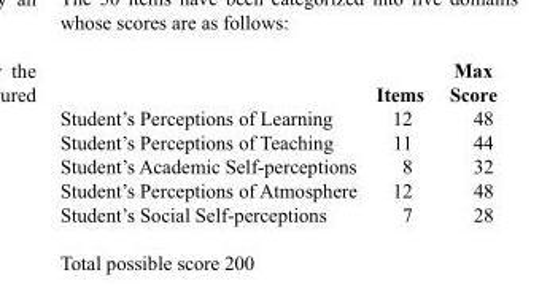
<table><thead><tr><td rowspan="2"></td><td rowspan="2">Items</td><td rowspan="2">Max Score</td></tr><tr></tr></thead><tbody><tr><td>Student’s Perceptions of Learning</td><td>12</td><td>48</td></tr><tr><td>Student’s Perceptions of Teaching</td><td>11</td><td>44</td></tr><tr><td>Student’s Academic Self-perceptions</td><td>8</td><td>32</td></tr><tr><td>Student’s Perceptions of Atmosphere</td><td>12</td><td>48</td></tr><tr><td>Student’s Social Self-perceptions</td><td>7</td><td>28</td></tr></tbody></table>